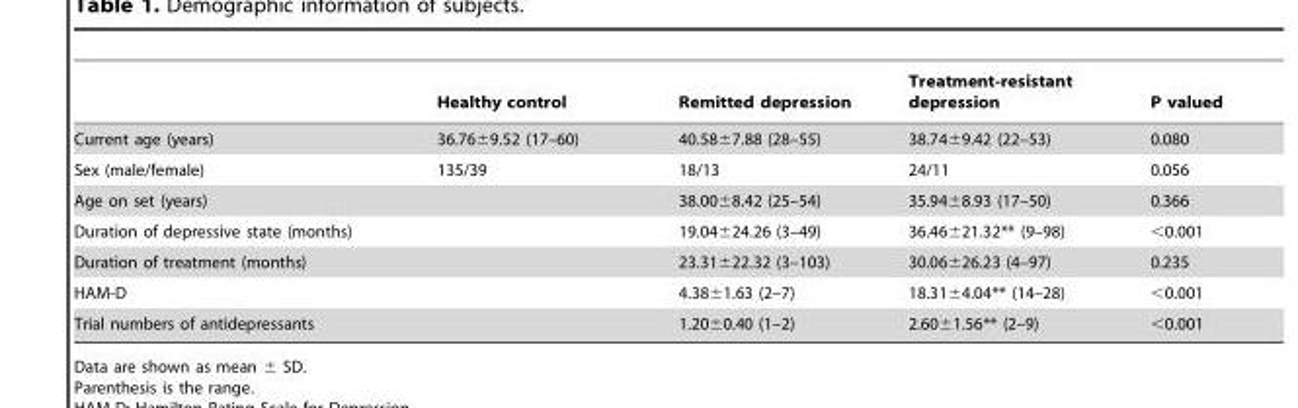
<table><thead><tr><td></td><td>Healthy control</td><td>Remitted depression</td><td>Treatment-resistant depression</td><td>P valued</td></tr></thead><tbody><tr><td>Current age (years)</td><td>36.76±9.52 (17–60)</td><td>40.58±7.88 (28–55)</td><td>38.74±9.42 (22–53)</td><td>0.080</td></tr><tr><td>Sex (male/female)</td><td>135/39</td><td>18/13</td><td>24/11</td><td>0.056</td></tr><tr><td>Age on set (years)</td><td></td><td>38.00±8.42 (25–54)</td><td>35.94±8.93 (17–50)</td><td>0.366</td></tr><tr><td>Duration of depressive state (months)</td><td></td><td>19.04±24.26 (3–49)</td><td>36.46±21.32** (9–98)</td><td>&lt;0.001</td></tr><tr><td>Duration of treatment (months)</td><td></td><td>23.31±22.32 (3–103)</td><td>30.06±26.23 (4–97)</td><td>0.235</td></tr><tr><td>HAM-D</td><td></td><td>4.38±1.63 (2–7)</td><td>18.31±4.04** (14–28)</td><td>&lt;0.001</td></tr><tr><td>Trial numbers of antidepressants</td><td></td><td>1.20±0.40 (1–2)</td><td>2.60±1.56** (2–9)</td><td>&lt;0.001</td></tr></tbody></table>